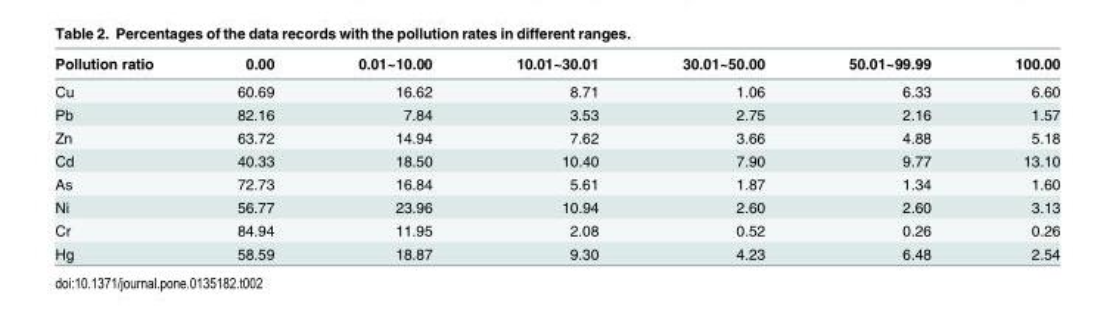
<table><thead><tr><td>Pollution ratio</td><td>0.00</td><td>0.01~10.00</td><td>10.01~30.01</td><td>30.01~50.00</td><td>50.01~99.99</td><td>100.00</td></tr></thead><tbody><tr><td>Cu</td><td>60.69</td><td>16.62</td><td>8.71</td><td>1.06</td><td>6.33</td><td>6.60</td></tr><tr><td>Pb</td><td>82.16</td><td>7.84</td><td>3.53</td><td>2.75</td><td>2.16</td><td>1.57</td></tr><tr><td>Zn</td><td>63.72</td><td>14.94</td><td>7.62</td><td>3.66</td><td>4.88</td><td>5.18</td></tr><tr><td>Cd</td><td>40.33</td><td>18.50</td><td>10.40</td><td>7.90</td><td>9.77</td><td>13.10</td></tr><tr><td>As</td><td>72.73</td><td>16.84</td><td>5.61</td><td>1.87</td><td>1.34</td><td>1.60</td></tr><tr><td>Ni</td><td>56.77</td><td>23.96</td><td>10.94</td><td>2.60</td><td>2.60</td><td>3.13</td></tr><tr><td>Cr</td><td>84.94</td><td>11.95</td><td>2.08</td><td>0.52</td><td>0.26</td><td>0.26</td></tr><tr><td>Hg</td><td>58.59</td><td>18.87</td><td>9.30</td><td>4.23</td><td>6.48</td><td>2.54</td></tr></tbody></table>